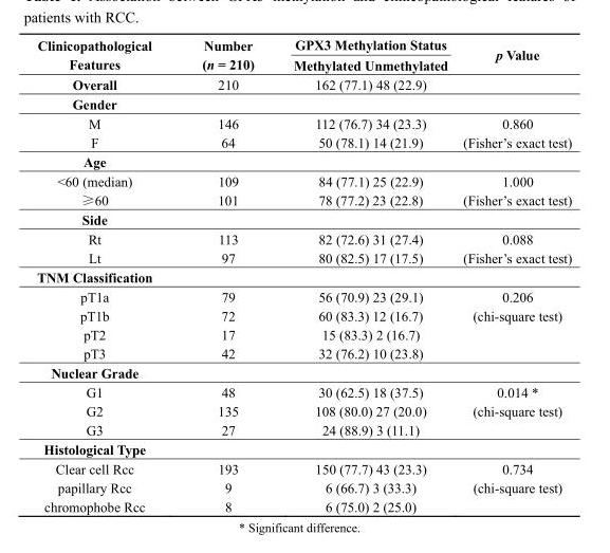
<table><thead><tr><td>Clinicopathological Features</td><td>Number (n = 210)</td><td>GPX3 Methylation Status Methylated Unmethylated</td><td>p Value</td></tr></thead><tbody><tr><td>Overall</td><td>210</td><td>162 (77.1) 48 (22.9)</td><td></td></tr><tr><td colspan="4">Gender</td></tr><tr><td>M</td><td>146</td><td>112 (76.7) 34 (23.3)</td><td>0.860</td></tr><tr><td>F</td><td>64</td><td>50 (78.1) 14 (21.9)</td><td>(Fisher’s exact test)</td></tr><tr><td colspan="4">Age</td></tr><tr><td>&lt;60 (median)</td><td>109</td><td>84 (77.1) 25 (22.9)</td><td>1.000</td></tr><tr><td>≥60</td><td>101</td><td>78 (77.2) 23 (22.8)</td><td>(Fisher’s exact test)</td></tr><tr><td colspan="4">Side</td></tr><tr><td>Rt</td><td>113</td><td>82 (72.6) 31 (27.4)</td><td>0.088</td></tr><tr><td>Lt</td><td>97</td><td>80 (82.5) 17 (17.5)</td><td>(Fisher’s exact test)</td></tr><tr><td colspan="4">TNM Classification</td></tr><tr><td>pT1a</td><td>79</td><td>56 (70.9) 23 (29.1)</td><td>0.206</td></tr><tr><td>pT1b</td><td>72</td><td>60 (83.3) 12 (16.7)</td><td>(chi-square test)</td></tr><tr><td>pT2</td><td>17</td><td>15 (83.3) 2 (16.7)</td><td></td></tr><tr><td>pT3</td><td>42</td><td>32 (76.2) 10 (23.8)</td><td></td></tr><tr><td colspan="4">Nuclear Grade</td></tr><tr><td>G1</td><td>48</td><td>30 (62.5) 18 (37.5)</td><td>0.014 *</td></tr><tr><td>G2</td><td>135</td><td>108 (80.0) 27 (20.0)</td><td>(chi-square test)</td></tr><tr><td>G3</td><td>27</td><td>24 (88.9) 3 (11.1)</td><td></td></tr><tr><td colspan="4">Histological Type</td></tr><tr><td>Clear cell Rcc</td><td>193</td><td>150 (77.7) 43 (23.3)</td><td>0.734</td></tr><tr><td>papillary Rcc</td><td>9</td><td>6 (66.7) 3 (33.3)</td><td>(chi-square test)</td></tr><tr><td>chromophobe Rcc</td><td>8</td><td>6 (75.0) 2 (25.0)</td><td></td></tr></tbody></table>